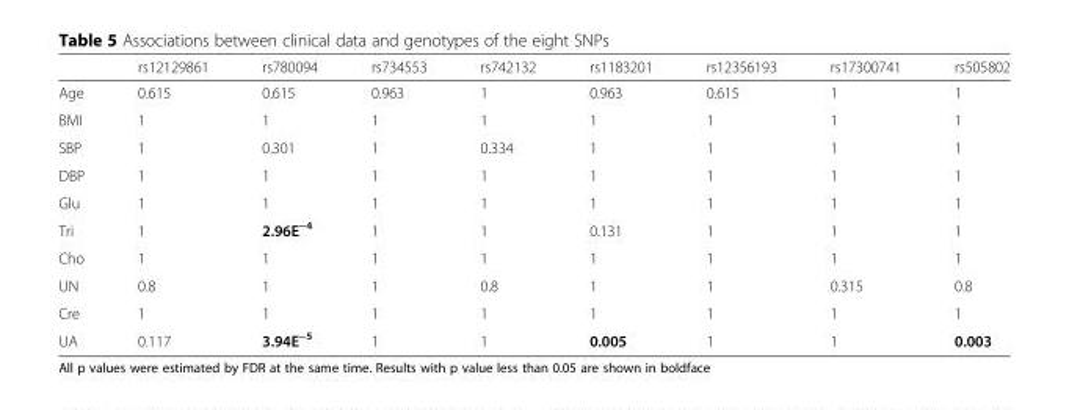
<table><thead><tr><td></td><td>rs12129861</td><td>rs780094</td><td>rs734553</td><td>rs742132</td><td>rs1183201</td><td>rs12356193</td><td>rs17300741</td><td>rs505802</td></tr></thead><tbody><tr><td>Age</td><td>0.615</td><td>0.615</td><td>0.963</td><td>1</td><td>0.963</td><td>0.615</td><td>1</td><td>1</td></tr><tr><td>BMI</td><td>1</td><td>1</td><td>1</td><td>1</td><td>1</td><td>1</td><td>1</td><td>1</td></tr><tr><td>SBP</td><td>1</td><td>0.301</td><td>1</td><td>0.334</td><td>1</td><td>1</td><td>1</td><td>1</td></tr><tr><td>DBP</td><td>1</td><td>1</td><td>1</td><td>1</td><td>1</td><td>1</td><td>1</td><td>1</td></tr><tr><td>Glu</td><td>1</td><td>1</td><td>1</td><td>1</td><td>1</td><td>1</td><td>1</td><td>1</td></tr><tr><td>Tri</td><td>1</td><td>2.96E<sup>−4</sup></td><td>1</td><td>1</td><td>0.131</td><td>1</td><td>1</td><td>1</td></tr><tr><td>Cho</td><td>1</td><td>1</td><td>1</td><td>1</td><td>1</td><td>1</td><td>1</td><td>1</td></tr><tr><td>UN</td><td>0.8</td><td>1</td><td>1</td><td>0.8</td><td>1</td><td>1</td><td>0.315</td><td>0.8</td></tr><tr><td>Cre</td><td>1</td><td>1</td><td>1</td><td>1</td><td>1</td><td>1</td><td>1</td><td>1</td></tr><tr><td>UA</td><td>0.117</td><td>3.94E<sup>−5</sup></td><td>1</td><td>1</td><td>0.005</td><td>1</td><td>1</td><td>0.003</td></tr></tbody></table>